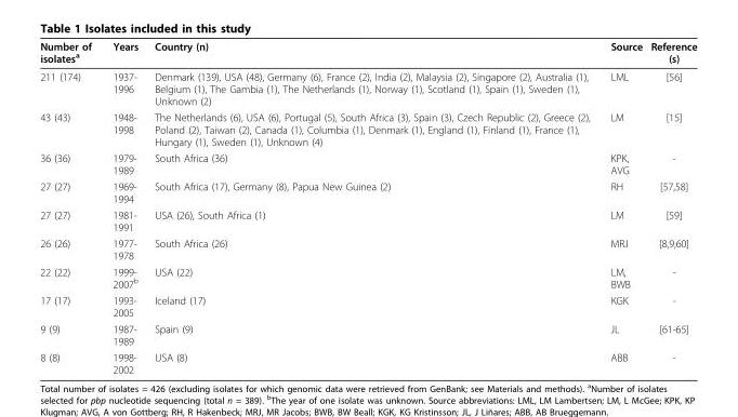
<table><thead><tr><td>Number of isolates<sup>a</sup></td><td>Years</td><td>Country (n)</td><td>Source</td><td>Reference (s)</td></tr></thead><tbody><tr><td>211 (174)</td><td>1937- 1996</td><td>Denmark (139), USA (48), Germany (6), France (2), India (2), Malaysia (2), Singapore (2), Australia (1), Belgium (1), The Gambia (1), The Netherlands (1), Norway (1), Scotland (1), Spain (1), Sweden (1), Unknown (2)</td><td>LML</td><td>[56]</td></tr><tr><td>43 (43)</td><td>1948- 1998</td><td>The Netherlands (6), USA (6), Portugal (5), South Africa (3), Spain (3), Czech Republic (2), Greece (2), Poland (2), Taiwan (2), Canada (1), Columbia (1), Denmark (1), England (1), Finland (1), France (1), Hungary (1), Sweden (1), Unknown (4)</td><td>LM</td><td>[15]</td></tr><tr><td>36 (36)</td><td>1979- 1989</td><td>South Africa (36)</td><td>KPK, AVG</td><td>-</td></tr><tr><td>27 (27)</td><td>1969- 1994</td><td>South Africa (17), Germany (8), Papua New Guinea (2)</td><td>RH</td><td>[57,58]</td></tr><tr><td>27 (27)</td><td>1981- 1991</td><td>USA (26), South Africa (1)</td><td>LM</td><td>[59]</td></tr><tr><td>26 (26)</td><td>1977- 1978</td><td>South Africa (26)</td><td>MRJ</td><td>[8,9,60]</td></tr><tr><td>22 (22)</td><td>1999- 2007<sup>b</sup></td><td>USA (22)</td><td>LM, BWB</td><td>-</td></tr><tr><td>17 (17)</td><td>1993- 2005</td><td>Iceland (17)</td><td>KGK</td><td>-</td></tr><tr><td>9 (9)</td><td>1987- 1989</td><td>Spain (9)</td><td>JL</td><td>[61-65]</td></tr><tr><td>8 (8)</td><td>1998- 2002</td><td>USA (8)</td><td>ABB</td><td>-</td></tr></tbody></table>